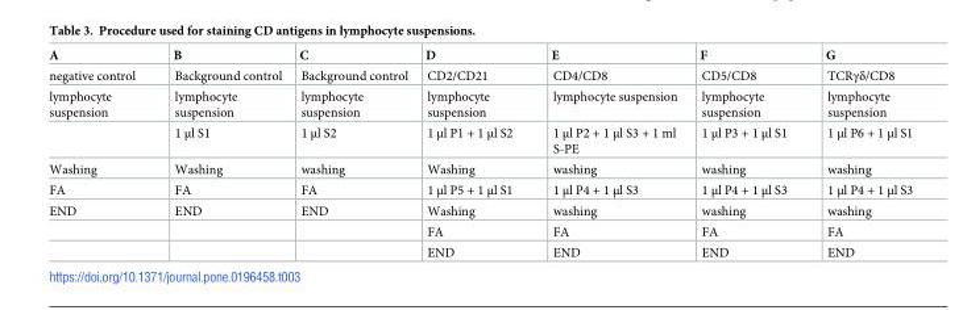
<table><thead><tr><td>A</td><td>B</td><td>C</td><td>D</td><td>E</td><td>F</td><td>G</td></tr></thead><tbody><tr><td>negative control</td><td>Background control</td><td>Background control</td><td>CD2/CD21</td><td>CD4/CD8</td><td>CD5/CD8</td><td>TCRγδ/CD8</td></tr><tr><td rowspan="2">lymphocyte suspension</td><td>lymphocyte suspension</td><td>lymphocyte suspension</td><td>lymphocyte suspension</td><td>lymphocyte suspension</td><td>lymphocyte suspension</td><td>lymphocyte suspension</td></tr><tr><td>1 μl S1</td><td>1 μl S2</td><td>1 μl P1 + 1 μl S2</td><td>1 μl P2 + 1 μl S3 + 1 ml S-PE</td><td>1 μl P3 + 1 μl S1</td><td>1 μl P6 + 1 μl S1</td></tr><tr><td>Washing</td><td>Washing</td><td>washing</td><td>Washing</td><td>washing</td><td>washing</td><td>washing</td></tr><tr><td>FA</td><td>FA</td><td>FA</td><td>1 μl P5 + 1 μl S1</td><td>1 μl P4 + 1 μl S3</td><td>1 μl P4 + 1 μl S3</td><td>1 μl P4 + 1 μl S3</td></tr><tr><td rowspan="3">END</td><td>END</td><td>END</td><td>Washing</td><td>washing</td><td>washing</td><td>washing</td></tr><tr><td></td><td></td><td>FA</td><td>FA</td><td>FA</td><td>FA</td></tr><tr><td></td><td></td><td>END</td><td>END</td><td>END</td><td>END</td></tr></tbody></table>